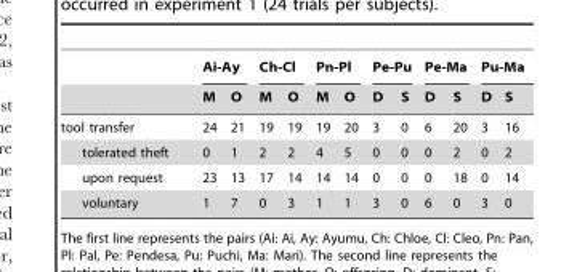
<table><thead><tr><td rowspan="2"></td><td colspan="2">Ai-Ay</td><td colspan="2">Ch-Cl</td><td colspan="2">Pn-Pl</td><td colspan="2">Pe-Pu</td><td colspan="2">Pe-Ma</td><td colspan="2">Pu-Ma</td></tr><tr><td>M</td><td>O</td><td>M</td><td>O</td><td>M</td><td>O</td><td>D</td><td>S</td><td>D</td><td>S</td><td>D</td><td>S</td></tr></thead><tbody><tr><td>tool transfer</td><td>24</td><td>21</td><td>19</td><td>19</td><td>19</td><td>20</td><td>3</td><td>0</td><td>6</td><td>20</td><td>3</td><td>16</td></tr><tr><td>tolerated theft</td><td>0</td><td>1</td><td>2</td><td>2</td><td>4</td><td>5</td><td>0</td><td>0</td><td>0</td><td>2</td><td>0</td><td>2</td></tr><tr><td>upon request</td><td>23</td><td>13</td><td>17</td><td>14</td><td>14</td><td>14</td><td>0</td><td>0</td><td>0</td><td>18</td><td>0</td><td>14</td></tr><tr><td>voluntary</td><td>1</td><td>7</td><td>0</td><td>3</td><td>1</td><td>1</td><td>3</td><td>0</td><td>6</td><td>0</td><td>3</td><td>0</td></tr></tbody></table>